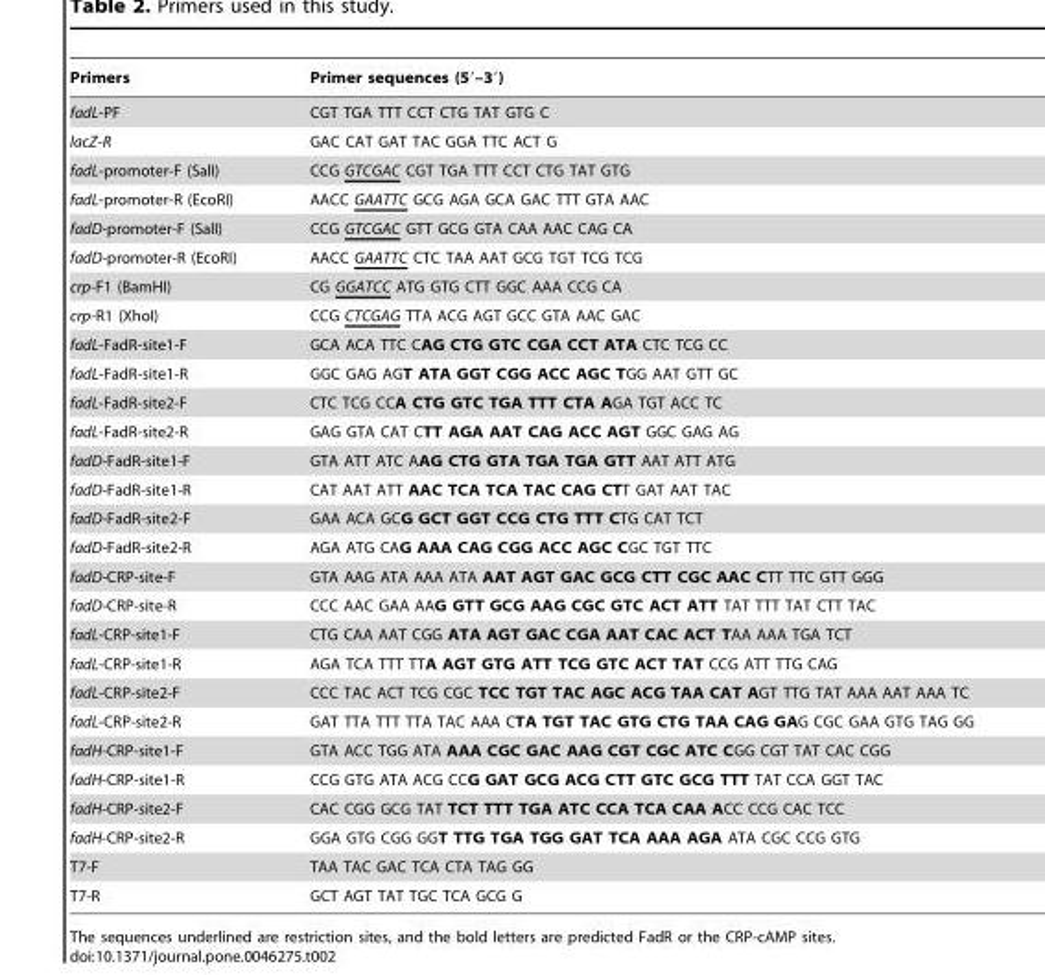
<table><thead><tr><td>Primers</td><td>Primer sequences (5′–3′)</td></tr></thead><tbody><tr><td>fadL-PF</td><td>CGT TGA TTT CCT CTG TAT GTG C</td></tr><tr><td>lacZ-R</td><td>GAC CAT GAT TAC GGA TTC ACT G</td></tr><tr><td>fadL-promoter-F (SalI)</td><td>CCG GTCGAC CGT TGA TTT CCT CTG TAT GTG</td></tr><tr><td>fadL-promoter-R (EcoRI)</td><td>AACC GAATTC GCG AGA GCA GAC TTT GTA AAC</td></tr><tr><td>fadD-promoter-F (SalI)</td><td>CCG GTCGAC GTT GCG GTA CAA AAC CAG CA</td></tr><tr><td>fadD-promoter-R (EcoRI)</td><td>AACC GAATTC CTC TAA AAT GCG TGT TCG TCG</td></tr><tr><td>crp-F1 (BamHI)</td><td>CG GGATCC ATG GTG CTT GGC AAA CCG CA</td></tr><tr><td>crp-R1 (XhoI)</td><td>CCG CTCGAG TTA ACG AGT GCC GTA AAC GAC</td></tr><tr><td>fadL-FadR-site1-F</td><td>GCA ACA TTC CAG CTG GTC CGA CCT ATA CTC TCG CC</td></tr><tr><td>fadL-FadR-site1-R</td><td>GGC GAG AGT ATA GGT CGG ACC AGC TGG AAT GTT GC</td></tr><tr><td>fadL-FadR-site2-F</td><td>CTC TCG CCA CTG GTC TGA TTT CTA AGA TGT ACC TC</td></tr><tr><td>fadL-FadR-site2-R</td><td>GAG GTA CAT CTT AGA AAT CAG ACC AGT GGC GAG AG</td></tr><tr><td>fadD-FadR-site1-F</td><td>GTA ATT ATC AAG CTG GTA TGA TGA GTT AAT ATT ATG</td></tr><tr><td>fadD-FadR-site1-R</td><td>CAT AAT ATT AAC TCA TCA TAC CAG CTT GAT AAT TAC</td></tr><tr><td>fadD-FadR-site2-F</td><td>GAA ACA GCG GCT GGT CCG CTG TTT CTG CAT TCT</td></tr><tr><td>fadD-FadR-site2-R</td><td>AGA ATG CAG AAA CAG CGG ACC AGC CGC TGT TTC</td></tr><tr><td>fadD-CRP-site-F</td><td>GTA AAG ATA AAA ATA AAT AGT GAC GCG CTT CGC AAC CTT TTC GTT GGG</td></tr><tr><td>fadD-CRP-site-R</td><td>CCC AAC GAA AAG GTT GCG AAG CGC GTC ACT ATT TAT TTT TAT CTT TAC</td></tr><tr><td>fadL-CRP-site1-F</td><td>CTG CAA AAT CGG ATA AGT GAC CGA AAT CAC ACT TAA AAA TGA TCT</td></tr><tr><td>fadL-CRP-site1-R</td><td>AGA TCA TTT TTA AGT GTG ATT TCG GTC ACT TAT CCG ATT TTG CAG</td></tr><tr><td>fadL-CRP-site2-F</td><td>CCC TAC ACT TCG CGC TCC TGT TAC AGC ACG TAA CAT AGT TTG TAT AAA AAT AAA TC</td></tr><tr><td>fadL-CRP-site2-R</td><td>GAT TTA TTT TTA TAC AAA CTA TGT TAC GTG CTG TAA CAG GAG CGC GAA GTG TAG GG</td></tr><tr><td>fadH-CRP-site1-F</td><td>GTA ACC TGG ATA AAA CGC GAC AAG CGT CGC ATC CGG CGT TAT CAC CGG</td></tr><tr><td>fadH-CRP-site1-R</td><td>CCG GTG ATA ACG CCG GAT GCG ACG CTT GTC GCG TTT TAT CCA GGT TAC</td></tr><tr><td>fadH-CRP-site2-F</td><td>CAC CGG GCG TAT TCT TTT TGA ATC CCA TCA CAA ACC CCG CAC TCC</td></tr><tr><td>fadH-CRP-site2-R</td><td>GGA GTG CGG GGT TTG TGA TGG GAT TCA AAA AGA ATA CGC CCG GTG</td></tr><tr><td>T7-F</td><td>TAA TAC GAC TCA CTA TAG GG</td></tr><tr><td>T7-R</td><td>GCT AGT TAT TGC TCA GCG G</td></tr></tbody></table>